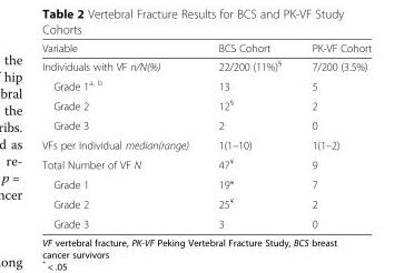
<table><thead><tr><td>Variable</td><td>BCS Cohort</td><td>PK-VF Cohort</td></tr></thead><tbody><tr><td>Individuals with VF n/N(%)</td><td>22/200 (11%)<sup>§</sup></td><td>7/200 (3.5%)</td></tr><tr><td>Grade 1<sup>a, b</sup></td><td>13</td><td>5</td></tr><tr><td>Grade 2</td><td>12<sup>§</sup></td><td>2</td></tr><tr><td>Grade 3</td><td>2</td><td>0</td></tr><tr><td>VFs per Individual median(range)</td><td>1(1–10)</td><td>1(1–2)</td></tr><tr><td>Total Number of VF N</td><td>47<sup>¥</sup></td><td>9</td></tr><tr><td>Grade 1</td><td>19*</td><td>7</td></tr><tr><td>Grade 2</td><td>25<sup>¥</sup></td><td>2</td></tr><tr><td>Grade 3</td><td>3</td><td>0</td></tr></tbody></table>